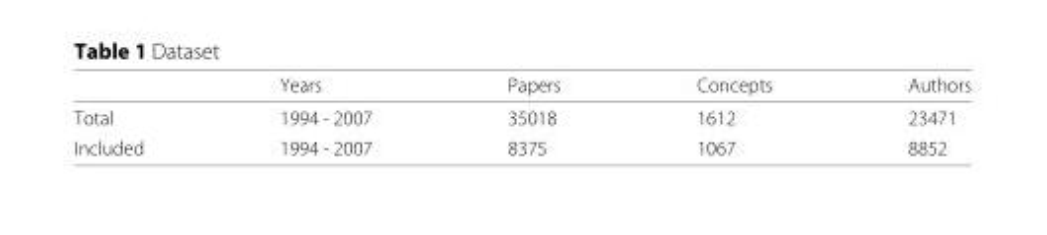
<table><thead><tr><td></td><td>Years</td><td>Papers</td><td>Concepts</td><td>Authors</td></tr></thead><tbody><tr><td>Total</td><td>1994 - 2007</td><td>35018</td><td>1612</td><td>23471</td></tr><tr><td>Included</td><td>1994 - 2007</td><td>8375</td><td>1067</td><td>8852</td></tr></tbody></table>